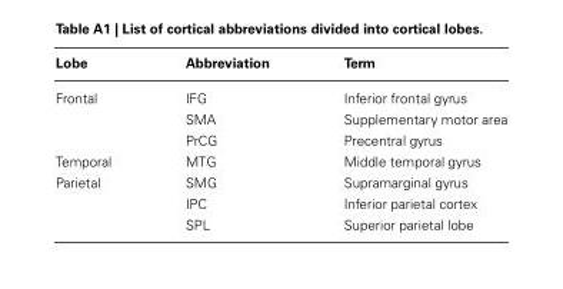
<table><thead><tr><td>Lobe</td><td>Abbreviation</td><td>Term</td></tr></thead><tbody><tr><td rowspan="3">Frontal</td><td>IFG</td><td>Inferior frontal gyrus</td></tr><tr><td>SMA</td><td>Supplementary motor area</td></tr><tr><td>PrCG</td><td>Precentral gyrus</td></tr><tr><td>Temporal</td><td>MTG</td><td>Middle temporal gyrus</td></tr><tr><td rowspan="3">Parietal</td><td>SMG</td><td>Supramarginal gyrus</td></tr><tr><td>IPC</td><td>Inferior parietal cortex</td></tr><tr><td>SPL</td><td>Superior parietal lobe</td></tr></tbody></table>